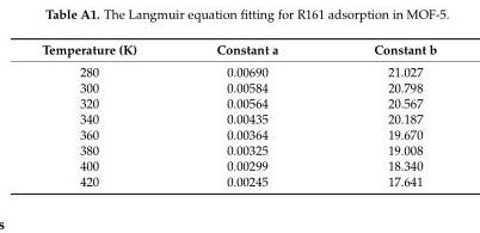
<table><thead><tr><td>Temperature (K)</td><td>Constant a</td><td>Constant b</td></tr></thead><tbody><tr><td>280</td><td>0.00690</td><td>21.027</td></tr><tr><td>300</td><td>0.00584</td><td>20.798</td></tr><tr><td>320</td><td>0.00564</td><td>20.567</td></tr><tr><td>340</td><td>0.00435</td><td>20.187</td></tr><tr><td>360</td><td>0.00364</td><td>19.670</td></tr><tr><td>380</td><td>0.00325</td><td>19.008</td></tr><tr><td>400</td><td>0.00299</td><td>18.340</td></tr><tr><td>420</td><td>0.00245</td><td>17.641</td></tr></tbody></table>